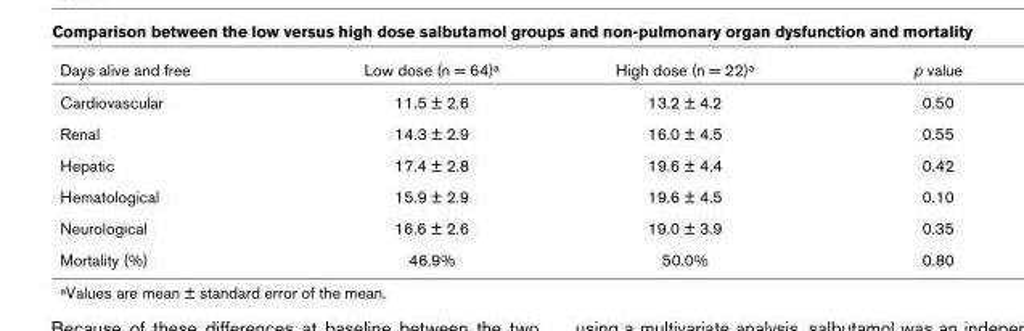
<table><thead><tr><td>Days alive and free</td><td>Low dose (n = 64)a</td><td>High dose (n = 22)a</td><td>p value</td></tr></thead><tbody><tr><td>Cardiovascular</td><td>11.5 ± 2.6</td><td>13.2 ± 4.2</td><td>0.50</td></tr><tr><td>Renal</td><td>14.3 ± 2.9</td><td>16.0 ± 4.5</td><td>0.55</td></tr><tr><td>Hepatic</td><td>17.4 ± 2.8</td><td>19.6 ± 4.4</td><td>0.42</td></tr><tr><td>Hematological</td><td>15.9 ± 2.9</td><td>19.6 ± 4.5</td><td>0.10</td></tr><tr><td>Neurological</td><td>16.6 ± 2.6</td><td>19.0 ± 3.9</td><td>0.35</td></tr><tr><td>Mortality (%)</td><td>46.9%</td><td>50.0%</td><td>0.80</td></tr></tbody></table>